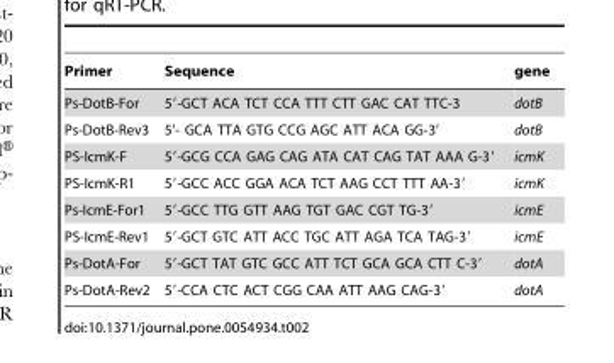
<table><thead><tr><td>Primer</td><td>Sequence</td><td>gene</td></tr></thead><tbody><tr><td>Ps-DotB-For</td><td>5′-GCT ACA TCT CCA TTT CTT GAC CAT TTC-3</td><td>dotB</td></tr><tr><td>Ps-DotB-Rev3</td><td>5’- GCA TTA GTG CCG AGC ATT ACA GG-3’</td><td>dotB</td></tr><tr><td>PS-IcmK-F</td><td>5′-GCG CCA GAG CAG ATA CAT CAG TAT AAA G-3′</td><td>icmK</td></tr><tr><td>PS-IcmK-R1</td><td>5′-GCC ACC GGA ACA TCT AAG CCT TTT AA-3′</td><td>icmK</td></tr><tr><td>Ps-IcmE-For1</td><td>5′-GCC TTG GTT AAG TGT GAC CGT TG-3′</td><td>icmE</td></tr><tr><td>PS-IcmE-Rev1</td><td>5′-GCT GTC ATT ACC TGC ATT AGA TCA TAG-3′</td><td>icmE</td></tr><tr><td>Ps-DotA-For</td><td>5′-GCT TAT GTC GCC ATT TCT GCA GCA CTT C-3′</td><td>dotA</td></tr><tr><td>Ps-DotA-Rev2</td><td>5′-CCA CTC ACT CGG CAA ATT AAG CAG-3′</td><td>dotA</td></tr></tbody></table>